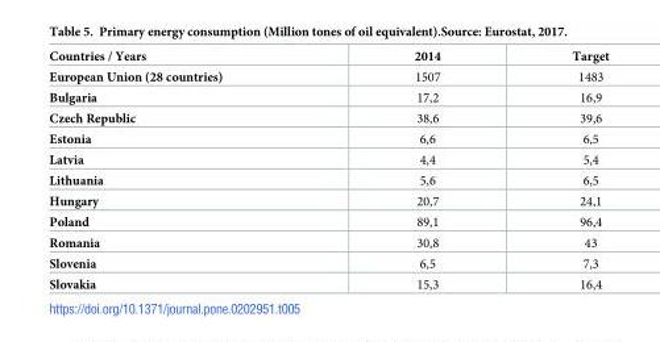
<table><thead><tr><td>Countries / Years</td><td>2014</td><td>Target</td></tr></thead><tbody><tr><td>European Union (28 countries)</td><td>1507</td><td>1483</td></tr><tr><td>Bulgaria</td><td>17,2</td><td>16,9</td></tr><tr><td>Czech Republic</td><td>38,6</td><td>39,6</td></tr><tr><td>Estonia</td><td>6,6</td><td>6,5</td></tr><tr><td>Latvia</td><td>4,4</td><td>5,4</td></tr><tr><td>Lithuania</td><td>5,6</td><td>6,5</td></tr><tr><td>Hungary</td><td>20,7</td><td>24,1</td></tr><tr><td>Poland</td><td>89,1</td><td>96,4</td></tr><tr><td>Romania</td><td>30,8</td><td>43</td></tr><tr><td>Slovenia</td><td>6,5</td><td>7,3</td></tr><tr><td>Slovakia</td><td>15,3</td><td>16,4</td></tr></tbody></table>